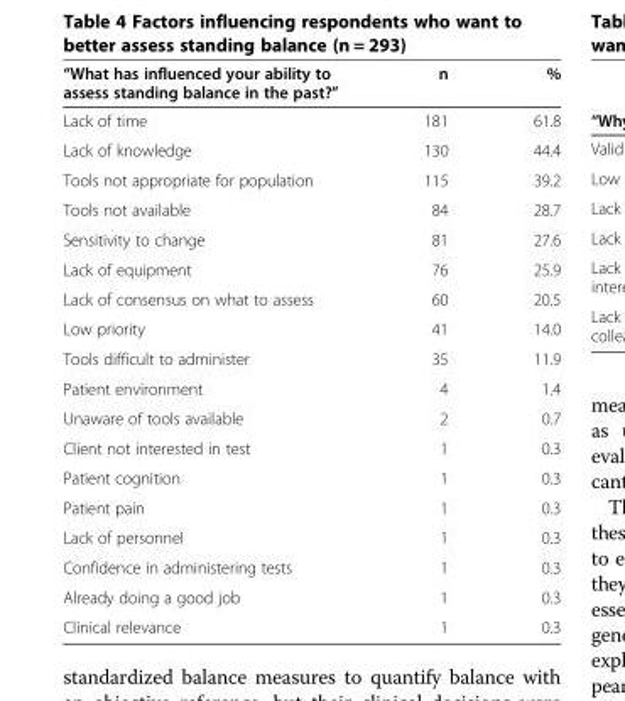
<table><thead><tr><td>“What has influenced your ability to assess standing balance in the past?”</td><td>n</td><td>%</td></tr></thead><tbody><tr><td>Lack of time</td><td>181</td><td>61.8</td></tr><tr><td>Lack of knowledge</td><td>130</td><td>44.4</td></tr><tr><td>Tools not appropriate for population</td><td>115</td><td>39.2</td></tr><tr><td>Tools not available</td><td>84</td><td>28.7</td></tr><tr><td>Sensitivity to change</td><td>81</td><td>27.6</td></tr><tr><td>Lack of equipment</td><td>76</td><td>25.9</td></tr><tr><td>Lack of consensus on what to assess</td><td>60</td><td>20.5</td></tr><tr><td>Low priority</td><td>41</td><td>14.0</td></tr><tr><td>Tools difficult to administer</td><td>35</td><td>11.9</td></tr><tr><td>Patient environment</td><td>4</td><td>1.4</td></tr><tr><td>Unaware of tools available</td><td>2</td><td>0.7</td></tr><tr><td>Client not interested in test</td><td>1</td><td>0.3</td></tr><tr><td>Patient cognition</td><td>1</td><td>0.3</td></tr><tr><td>Patient pain</td><td>1</td><td>0.3</td></tr><tr><td>Lack of personnel</td><td>1</td><td>0.3</td></tr><tr><td>Confidence in administering tests</td><td>1</td><td>0.3</td></tr><tr><td>Already doing a good job</td><td>1</td><td>0.3</td></tr><tr><td>Clinical relevance</td><td>1</td><td>0.3</td></tr></tbody></table>